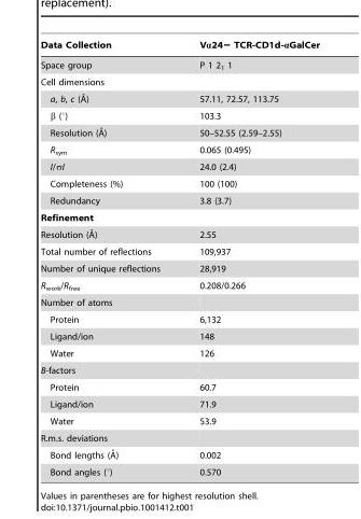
<table><thead><tr><td>Data Collection</td><td>Vα24− TCR-CD1d-αGalCer</td></tr></thead><tbody><tr><td>Space group</td><td>P 1 2<sub>1</sub> 1</td></tr><tr><td colspan="2">Cell dimensions</td></tr><tr><td>a, b, c (A˚)</td><td>57.11, 72.57, 113.75</td></tr><tr><td>β (°)</td><td>103.3</td></tr><tr><td>Resolution (A˚)</td><td>50–52.55 (2.59–2.55)</td></tr><tr><td>R<sub>sym</sub></td><td>0.065 (0.495)</td></tr><tr><td>I/σI</td><td>24.0 (2.4)</td></tr><tr><td>Completeness (%)</td><td>100 (100)</td></tr><tr><td>Redundancy</td><td>3.8 (3.7)</td></tr><tr><td colspan="2">Refinement</td></tr><tr><td>Resolution (A˚)</td><td>2.55</td></tr><tr><td>Total number of reflections</td><td>109,937</td></tr><tr><td>Number of unique reflections</td><td>28,919</td></tr><tr><td>R<sub>work</sub>/R<sub>free</sub></td><td>0.208/0.266</td></tr><tr><td colspan="2">Number of atoms</td></tr><tr><td>Protein</td><td>6,132</td></tr><tr><td>Ligand/ion</td><td>148</td></tr><tr><td>Water</td><td>126</td></tr><tr><td colspan="2">B-factors</td></tr><tr><td>Protein</td><td>60.7</td></tr><tr><td>Ligand/ion</td><td>71.9</td></tr><tr><td>Water</td><td>53.9</td></tr><tr><td colspan="2">R.m.s. deviations</td></tr><tr><td>Bond lengths (A˚)</td><td>0.002</td></tr><tr><td>Bond angles (°)</td><td>0.570</td></tr></tbody></table>